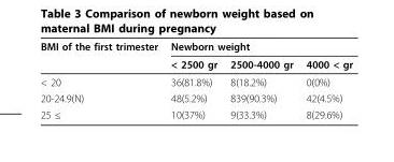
<table><thead><tr><td rowspan="2">BMI of the first trimester</td><td colspan="3">Newborn weight</td></tr><tr><td>&lt; 2500 gr</td><td>2500-4000 gr</td><td>4000 &lt; gr</td></tr></thead><tbody><tr><td>&lt; 20</td><td>36(81.8%)</td><td>8(18.2%)</td><td>0(0%)</td></tr><tr><td>20-24.9(N)</td><td>48(5.2%)</td><td>839(90.3%)</td><td>42(4.5%)</td></tr><tr><td>25 ≤</td><td>10(37%)</td><td>9(33.3%)</td><td>8(29.6%)</td></tr></tbody></table>